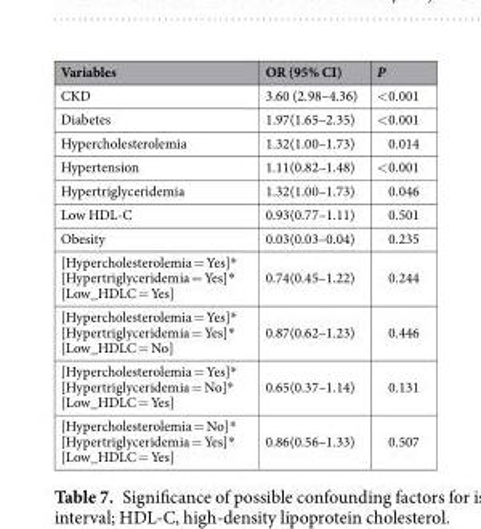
<table><thead><tr><td>Variables</td><td>OR (95% CI)</td><td>P</td></tr></thead><tbody><tr><td>CKD</td><td>3.60 (2.98–4.36)</td><td>&lt;0.001</td></tr><tr><td>Diabetes</td><td>1.97(1.65–2.35)</td><td>&lt;0.001</td></tr><tr><td>Hypercholesterolemia</td><td>1.32(1.00–1.73)</td><td>0.014</td></tr><tr><td>Hypertension</td><td>1.11(0.82–1.48)</td><td>&lt;0.001</td></tr><tr><td>Hypertriglyceridemia</td><td>1.32(1.00–1.73)</td><td>0.046</td></tr><tr><td>Low HDL-C</td><td>0.93(0.77–1.11)</td><td>0.501</td></tr><tr><td>Obesity</td><td>0.03(0.03–0.04)</td><td>0.235</td></tr><tr><td>[Hypercholesterolemia = Yes]* [Hypertriglyceridemia = Yes]* [Low_HDLC = Yes]</td><td>0.74(0.45–1.22)</td><td>0.244</td></tr><tr><td>[Hypercholesterolemia = Yes]* [Hypertriglyceridemia = Yes]* [Low_HDLC = No]</td><td>0.87(0.62–1.23)</td><td>0.446</td></tr><tr><td>[Hypercholesterolemia = Yes]* [Hypertriglyceridemia = No]* [Low_HDLC = Yes]</td><td>0.65(0.37–1.14)</td><td>0.131</td></tr><tr><td>[Hypercholesterolemia = No]* [Hypertriglyceridemia = Yes]* [Low_HDLC = Yes]</td><td>0.86(0.56–1.33)</td><td>0.507</td></tr></tbody></table>